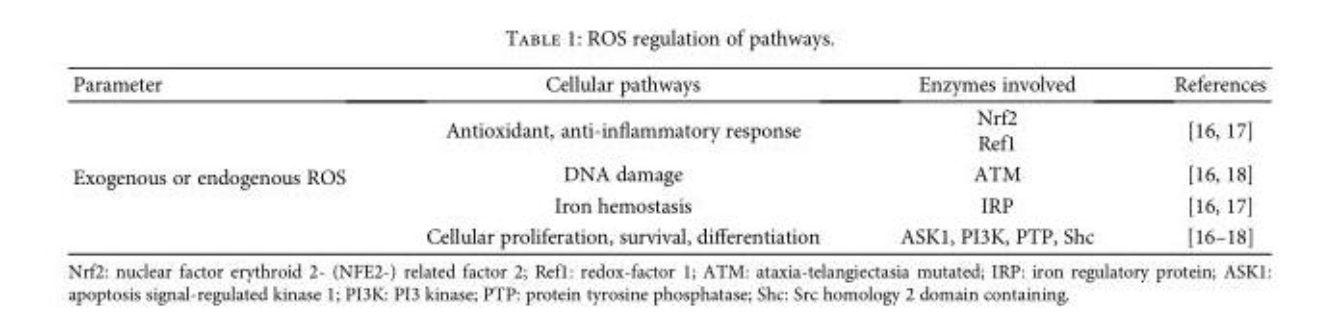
<table><thead><tr><td>Parameter</td><td>Cellular pathways</td><td>Enzymes involved</td><td>References</td></tr></thead><tbody><tr><td rowspan="4">Exogenous or endogenous ROS</td><td>Antioxidant, anti-inflammatory response</td><td>Nrf2 Ref1</td><td>[16, 17]</td></tr><tr><td>DNA damage</td><td>ATM</td><td>[16, 18]</td></tr><tr><td>Iron hemostasis</td><td>IRP</td><td>[16, 17]</td></tr><tr><td>Cellular proliferation, survival, differentiation</td><td>ASK1, PI3K, PTP, Shc</td><td>[16–18]</td></tr></tbody></table>